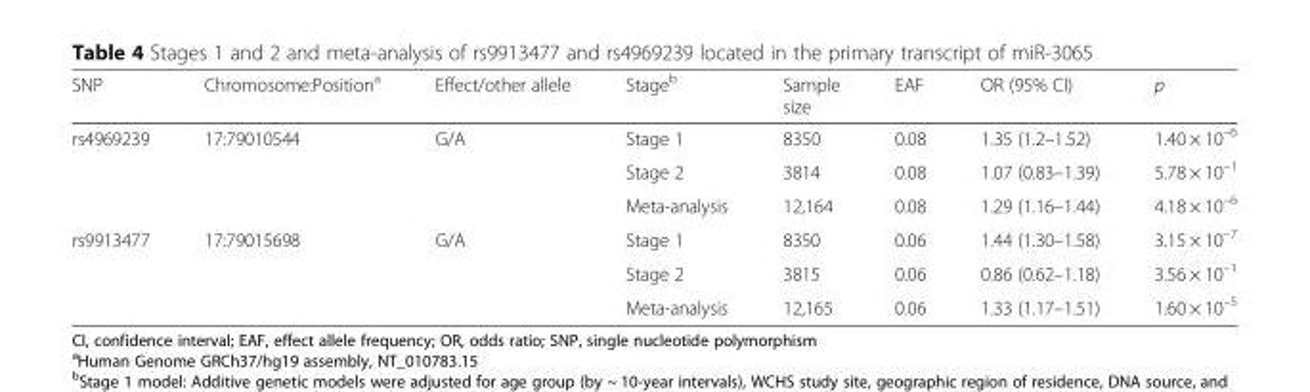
<table><thead><tr><td>SNP</td><td>Chromosome:Position<sup>a</sup></td><td>Effect/other allele</td><td>Stage<sup>b</sup></td><td>Sample size</td><td>EAF</td><td>OR (95% CI)</td><td>p</td></tr></thead><tbody><tr><td rowspan="3">rs4969239</td><td rowspan="3">17:79010544</td><td rowspan="3">G/A</td><td>Stage 1</td><td>8350</td><td>0.08</td><td>1.35 (1.2–1.52)</td><td>1.40 × 10<sup>–6</sup></td></tr><tr><td>Stage 2</td><td>3814</td><td>0.08</td><td>1.07 (0.83–1.39)</td><td>5.78 × 10<sup>–1</sup></td></tr><tr><td>Meta-analysis</td><td>12,164</td><td>0.08</td><td>1.29 (1.16–1.44)</td><td>4.18 × 10<sup>–6</sup></td></tr><tr><td rowspan="3">rs9913477</td><td rowspan="3">17:79015698</td><td rowspan="3">G/A</td><td>Stage 1</td><td>8350</td><td>0.06</td><td>1.44 (1.30–1.58)</td><td>3.15 × 10<sup>–7</sup></td></tr><tr><td>Stage 2</td><td>3815</td><td>0.06</td><td>0.86 (0.62–1.18)</td><td>3.56 × 10<sup>–1</sup></td></tr><tr><td>Meta-analysis</td><td>12,165</td><td>0.06</td><td>1.33 (1.17–1.51)</td><td>1.60 × 10<sup>–5</sup></td></tr></tbody></table>